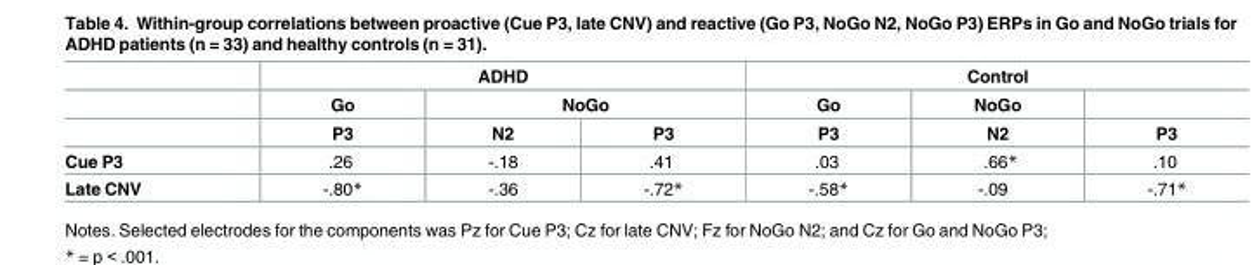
<table><thead><tr><td rowspan="3"></td><td colspan="3">ADHD</td><td colspan="3">Control</td></tr><tr><td rowspan="2">Go P3</td><td colspan="2">NoGo</td><td rowspan="2">Go P3</td><td rowspan="2">NoGo N2</td><td rowspan="2">P3</td></tr><tr><td>N2</td><td>P3</td></tr></thead><tbody><tr><td>Cue P3</td><td>.26</td><td>-.18</td><td>.41</td><td>.03</td><td>.66*</td><td>.10</td></tr><tr><td>Late CNV</td><td>-.80*</td><td>-.36</td><td>-.72*</td><td>-.58*</td><td>-.09</td><td>-.71*</td></tr></tbody></table>